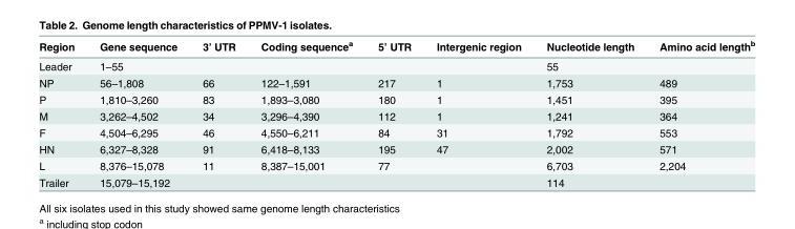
<table><thead><tr><td>Region</td><td>Gene sequence</td><td>3’ UTR</td><td>Coding sequence<sup>a</sup></td><td>5’ UTR</td><td>Intergenic region</td><td>Nucleotide length</td><td>Amino acid length<sup>b</sup></td></tr></thead><tbody><tr><td>Leader</td><td>1–55</td><td></td><td></td><td></td><td></td><td>55</td><td></td></tr><tr><td>NP</td><td>56–1,808</td><td>66</td><td>122–1,591</td><td>217</td><td>1</td><td>1,753</td><td>489</td></tr><tr><td>P</td><td>1,810–3,260</td><td>83</td><td>1,893–3,080</td><td>180</td><td>1</td><td>1,451</td><td>395</td></tr><tr><td>M</td><td>3,262–4,502</td><td>34</td><td>3,296–4,390</td><td>112</td><td>1</td><td>1,241</td><td>364</td></tr><tr><td>F</td><td>4,504–6,295</td><td>46</td><td>4,550–6,211</td><td>84</td><td>31</td><td>1,792</td><td>553</td></tr><tr><td>HN</td><td>6,327–8,328</td><td>91</td><td>6,418–8,133</td><td>195</td><td>47</td><td>2,002</td><td>571</td></tr><tr><td>L</td><td>8,376–15,078</td><td>11</td><td>8,387–15,001</td><td>77</td><td></td><td>6,703</td><td>2,204</td></tr><tr><td>Trailer</td><td>15,079–15,192</td><td></td><td></td><td></td><td></td><td>114</td><td></td></tr></tbody></table>